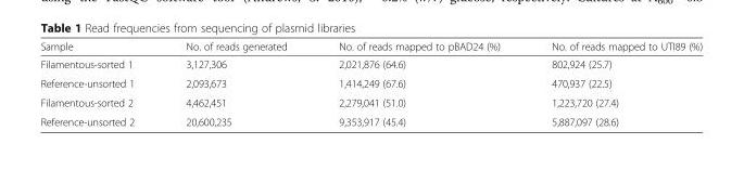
<table><thead><tr><td>Sample</td><td>No. of reads generated</td><td>No. of reads mapped to pBAD24 (%)</td><td>No. of reads mapped to UTI89 (%)</td></tr></thead><tbody><tr><td>Filamentous-sorted 1</td><td>3,127,306</td><td>2,021,876 (64.6)</td><td>802,924 (25.7)</td></tr><tr><td>Reference-unsorted 1</td><td>2,093,673</td><td>1,414,249 (67.6)</td><td>470,937 (22.5)</td></tr><tr><td>Filamentous-sorted 2</td><td>4,462,451</td><td>2,279,041 (51.0)</td><td>1,223,720 (27.4)</td></tr><tr><td>Reference-unsorted 2</td><td>20,600,235</td><td>9,353,917 (45.4)</td><td>5,887,097 (28.6)</td></tr></tbody></table>